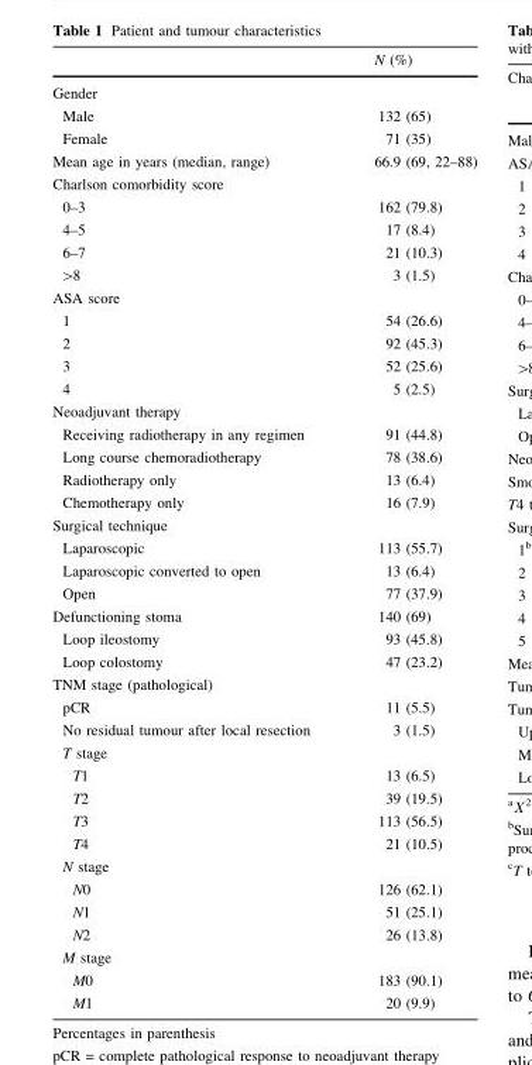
<table><thead><tr><td></td><td>N (%)</td></tr></thead><tbody><tr><td colspan="2">Gender</td></tr><tr><td>Male</td><td>132 (65)</td></tr><tr><td>Female</td><td>71 (35)</td></tr><tr><td>Mean age in years (median, range)</td><td>66.9 (69, 22–88)</td></tr><tr><td colspan="2">Charlson comorbidity score</td></tr><tr><td>0–3</td><td>162 (79.8)</td></tr><tr><td>4–5</td><td>17 (8.4)</td></tr><tr><td>6–7</td><td>21 (10.3)</td></tr><tr><td>&gt;8</td><td>3 (1.5)</td></tr><tr><td colspan="2">ASA score</td></tr><tr><td>1</td><td>54 (26.6)</td></tr><tr><td>2</td><td>92 (45.3)</td></tr><tr><td>3</td><td>52 (25.6)</td></tr><tr><td>4</td><td>5 (2.5)</td></tr><tr><td colspan="2">Neoadjuvant therapy</td></tr><tr><td>Receiving radiotherapy in any regimen</td><td>91 (44.8)</td></tr><tr><td>Long course chemoradiotherapy</td><td>78 (38.6)</td></tr><tr><td>Radiotherapy only</td><td>13 (6.4)</td></tr><tr><td>Chemotherapy only</td><td>16 (7.9)</td></tr><tr><td colspan="2">Surgical technique</td></tr><tr><td>Laparoscopic</td><td>113 (55.7)</td></tr><tr><td>Laparoscopic converted to open</td><td>13 (6.4)</td></tr><tr><td>Open</td><td>77 (37.9)</td></tr><tr><td>Defunctioning stoma</td><td>140 (69)</td></tr><tr><td>Loop ileostomy</td><td>93 (45.8)</td></tr><tr><td>Loop colostomy</td><td>47 (23.2)</td></tr><tr><td colspan="2">TNM stage (pathological)</td></tr><tr><td>pCR</td><td>11 (5.5)</td></tr><tr><td>No residual tumour after local resection</td><td>3 (1.5)</td></tr><tr><td colspan="2">T stage</td></tr><tr><td>T1</td><td>13 (6.5)</td></tr><tr><td>T2</td><td>39 (19.5)</td></tr><tr><td>T3</td><td>113 (56.5)</td></tr><tr><td>T4</td><td>21 (10.5)</td></tr><tr><td colspan="2">N stage</td></tr><tr><td>N0</td><td>126 (62.1)</td></tr><tr><td>N1</td><td>51 (25.1)</td></tr><tr><td>N2</td><td>26 (13.8)</td></tr><tr><td colspan="2">M stage</td></tr><tr><td>M0</td><td>183 (90.1)</td></tr><tr><td>M1</td><td>20 (9.9)</td></tr></tbody></table>